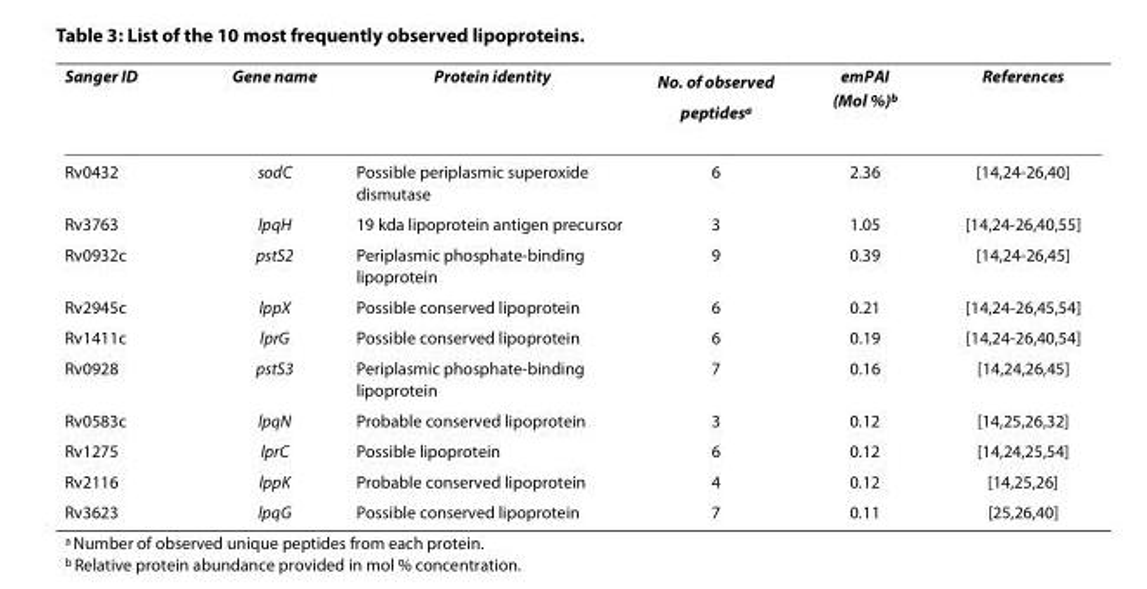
<table><thead><tr><td>Sanger ID</td><td>Gene name</td><td>Protein identity</td><td>No. of observed peptides<sup>a</sup></td><td>emPAI (Mol %)<sup>b</sup></td><td>References</td></tr></thead><tbody><tr><td>Rv0432</td><td>sodC</td><td>Possible periplasmic superoxide dismutase</td><td>6</td><td>2.36</td><td>[14,24-26,40]</td></tr><tr><td>Rv3763</td><td>lpqH</td><td>19 kda lipoprotein antigen precursor</td><td>3</td><td>1.05</td><td>[14,24-26,40,55]</td></tr><tr><td>Rv0932c</td><td>pstS2</td><td>Periplasmic phosphate-binding lipoprotein</td><td>9</td><td>0.39</td><td>[14,24-26,45]</td></tr><tr><td>Rv2945c</td><td>lppX</td><td>Possible conserved lipoprotein</td><td>6</td><td>0.21</td><td>[14,24-26,45,54]</td></tr><tr><td>Rv1411c</td><td>lprG</td><td>Possible conserved lipoprotein</td><td>6</td><td>0.19</td><td>[14,24-26,40,54]</td></tr><tr><td>Rv0928</td><td>pstS3</td><td>Periplasmic phosphate-binding lipoprotein</td><td>7</td><td>0.16</td><td>[14,24,26,45]</td></tr><tr><td>Rv0583c</td><td>lpqN</td><td>Probable conserved lipoprotein</td><td>3</td><td>0.12</td><td>[14,25,26,32]</td></tr><tr><td>Rv1275</td><td>lprC</td><td>Possible lipoprotein</td><td>6</td><td>0.12</td><td>[14,24,25,54]</td></tr><tr><td>Rv2116</td><td>lppK</td><td>Probable conserved lipoprotein</td><td>4</td><td>0.12</td><td>[14,25,26]</td></tr><tr><td>Rv3623</td><td>lpqG</td><td>Possible conserved lipoprotein</td><td>7</td><td>0.11</td><td>[25,26,40]</td></tr></tbody></table>